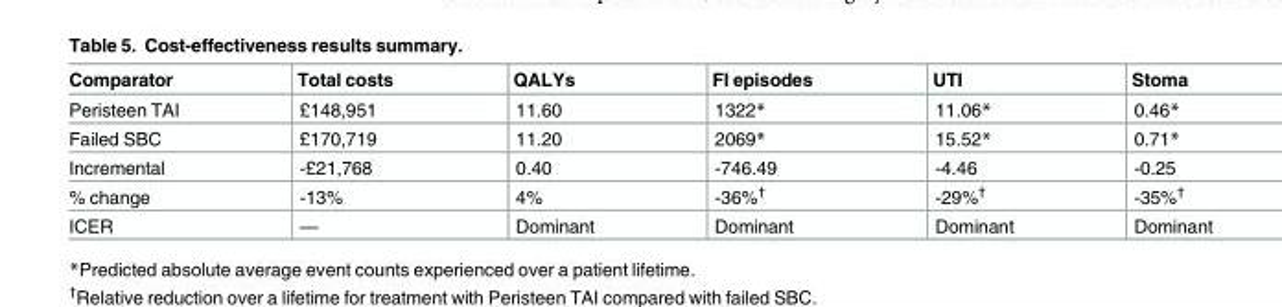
<table><thead><tr><td>Comparator</td><td>Total costs</td><td>QALYs</td><td>FI episodes</td><td>UTI</td><td>Stoma</td></tr></thead><tbody><tr><td>Peristeen TAI</td><td>£148,951</td><td>11.60</td><td>1322*</td><td>11.06*</td><td>0.46*</td></tr><tr><td>Failed SBC</td><td>£170,719</td><td>11.20</td><td>2069*</td><td>15.52*</td><td>0.71*</td></tr><tr><td>Incremental</td><td>-£21,768</td><td>0.40</td><td>-746.49</td><td>-4.46</td><td>-0.25</td></tr><tr><td>% change</td><td>-13%</td><td>4%</td><td>-36%<sup>†</sup></td><td>-29%<sup>†</sup></td><td>-35%<sup>†</sup></td></tr><tr><td>ICER</td><td>—</td><td>Dominant</td><td>Dominant</td><td>Dominant</td><td>Dominant</td></tr></tbody></table>